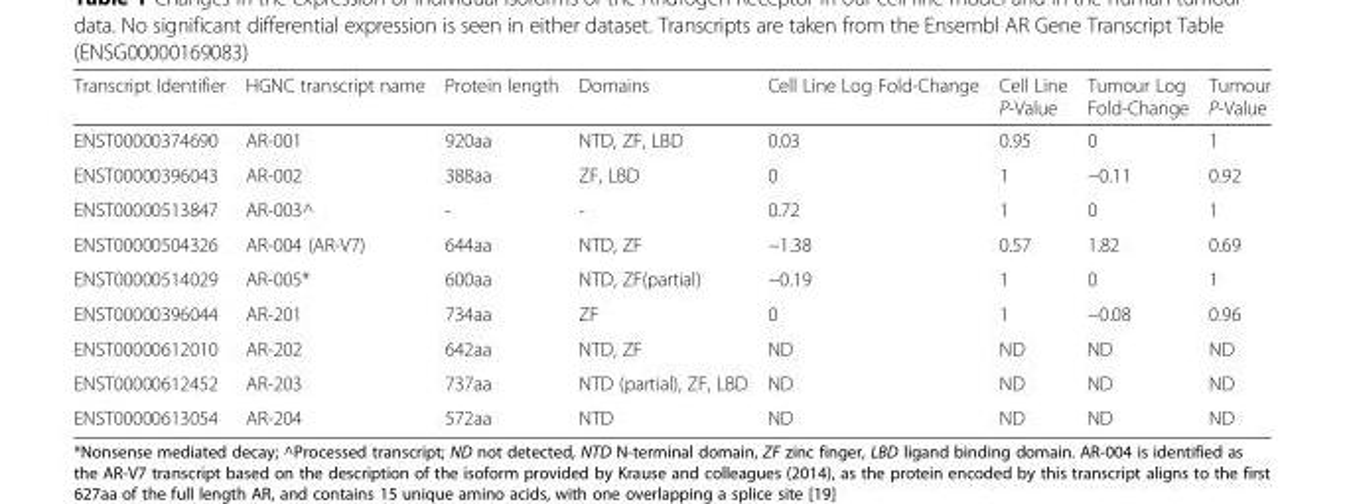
<table><thead><tr><td>Transcript Identifier</td><td>HGNC transcript name</td><td>Protein length</td><td>Domains</td><td>Cell Line Log Fold-Change</td><td>Cell Line P-Value</td><td>Tumour Log Fold-Change</td><td>Tumour P-Value</td></tr></thead><tbody><tr><td>ENST00000374690</td><td>AR-001</td><td>920aa</td><td>NTD, ZF, LBD</td><td>0.03</td><td>0.95</td><td>0</td><td>1</td></tr><tr><td>ENST00000396043</td><td>AR-002</td><td>388aa</td><td>ZF, LBD</td><td>0</td><td>1</td><td>−0.11</td><td>0.92</td></tr><tr><td>ENST00000513847</td><td>AR-003^</td><td>-</td><td>-</td><td>0.72</td><td>1</td><td>0</td><td>1</td></tr><tr><td>ENST00000504326</td><td>AR-004 (AR-V7)</td><td>644aa</td><td>NTD, ZF</td><td>−1.38</td><td>0.57</td><td>1.82</td><td>0.69</td></tr><tr><td>ENST00000514029</td><td>AR-005*</td><td>600aa</td><td>NTD, ZF(partial)</td><td>−0.19</td><td>1</td><td>0</td><td>1</td></tr><tr><td>ENST00000396044</td><td>AR-201</td><td>734aa</td><td>ZF</td><td>0</td><td>1</td><td>−0.08</td><td>0.96</td></tr><tr><td>ENST00000612010</td><td>AR-202</td><td>642aa</td><td>NTD, ZF</td><td>ND</td><td>ND</td><td>ND</td><td>ND</td></tr><tr><td>ENST00000612452</td><td>AR-203</td><td>737aa</td><td>NTD (partial), ZF, LBD</td><td>ND</td><td>ND</td><td>ND</td><td>ND</td></tr><tr><td>ENST00000613054</td><td>AR-204</td><td>572aa</td><td>NTD</td><td>ND</td><td>ND</td><td>ND</td><td>ND</td></tr></tbody></table>